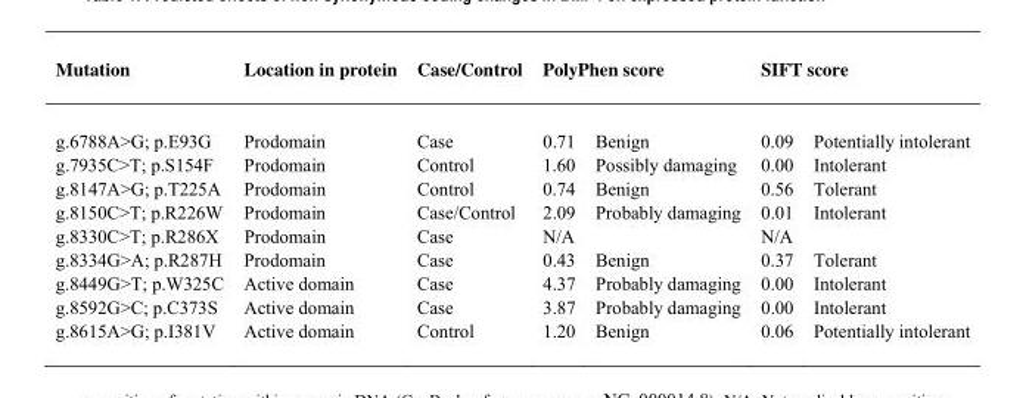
<table><thead><tr><td rowspan="2">Mutation g.6788A&gt;G; p.E93G</td><td rowspan="2">Location in protein Prodomain</td><td rowspan="2">Case/Control Case</td><td colspan="2">PolyPhen score</td><td colspan="2">SIFT score</td></tr><tr><td>0.71</td><td>Benign</td><td>0.09</td><td>Potentially intolerant</td></tr></thead><tbody><tr><td>g.7935C&gt;T; p.S154F</td><td>Prodomain</td><td>Control</td><td>1.60</td><td>Possibly damaging</td><td>0.00</td><td>Intolerant</td></tr><tr><td>g.8147A&gt;G; p.T225A</td><td>Prodomain</td><td>Control</td><td>0.74</td><td>Benign</td><td>0.56</td><td>Tolerant</td></tr><tr><td>g.8150C&gt;T; p.R226W</td><td>Prodomain</td><td>Case/Control</td><td>2.09</td><td>Probably damaging</td><td>0.01</td><td>Intolerant</td></tr><tr><td>g.8330C&gt;T; p.R286X</td><td>Prodomain</td><td>Case</td><td>N/A</td><td></td><td>N/A</td><td></td></tr><tr><td>g.8334G&gt;A; p.R287H</td><td>Prodomain</td><td>Case</td><td>0.43</td><td>Benign</td><td>0.37</td><td>Tolerant</td></tr><tr><td>g.8449G&gt;T; p.W325C</td><td>Active domain</td><td>Case</td><td>4.37</td><td>Probably damaging</td><td>0.00</td><td>Intolerant</td></tr><tr><td>g.8592G&gt;C; p.C373S</td><td>Active domain</td><td>Case</td><td>3.87</td><td>Probably damaging</td><td>0.00</td><td>Intolerant</td></tr><tr><td>g.8615A&gt;G; p.I381V</td><td>Active domain</td><td>Control</td><td>1.20</td><td>Benign</td><td>0.06</td><td>Potentially intolerant</td></tr></tbody></table>